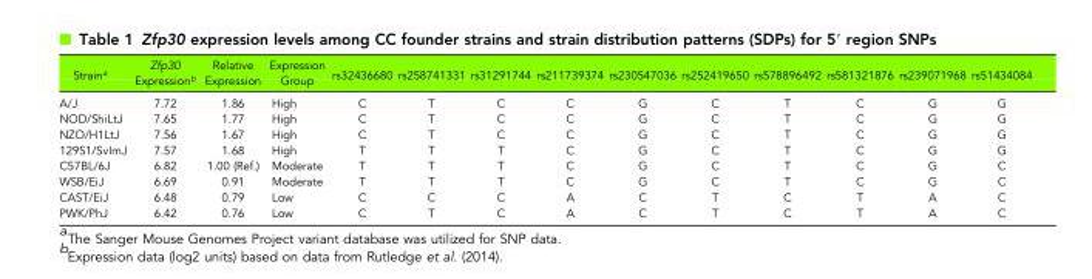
<table><thead><tr><td>Strain<sup>a</sup></td><td>Zfp30 Expression<sup>b</sup></td><td>Relative Expression</td><td>Expression Group</td><td>rs32436680</td><td>rs258741331</td><td>rs31291744</td><td>rs211739374</td><td>rs230547036</td><td>rs252419650</td><td>rs578896492</td><td>rs581321876</td><td>rs239071968</td><td>rs51434084</td></tr></thead><tbody><tr><td>A/J</td><td>7.72</td><td>1.86</td><td>High</td><td>C</td><td>T</td><td>C</td><td>C</td><td>G</td><td>C</td><td>T</td><td>C</td><td>G</td><td>G</td></tr><tr><td>NOD/ShiLtJ</td><td>7.65</td><td>1.77</td><td>High</td><td>C</td><td>T</td><td>C</td><td>C</td><td>G</td><td>C</td><td>T</td><td>C</td><td>G</td><td>G</td></tr><tr><td>NZO/H1LtJ</td><td>7.56</td><td>1.67</td><td>High</td><td>C</td><td>T</td><td>C</td><td>C</td><td>G</td><td>C</td><td>T</td><td>C</td><td>G</td><td>G</td></tr><tr><td>129S1/SvImJ</td><td>7.57</td><td>1.68</td><td>High</td><td>T</td><td>T</td><td>T</td><td>C</td><td>G</td><td>C</td><td>T</td><td>C</td><td>G</td><td>G</td></tr><tr><td>C57BL/6J</td><td>6.82</td><td>1.00 (Ref.)</td><td>Moderate</td><td>T</td><td>T</td><td>T</td><td>C</td><td>G</td><td>C</td><td>T</td><td>C</td><td>G</td><td>C</td></tr><tr><td>WSB/EiJ</td><td>6.69</td><td>0.91</td><td>Moderate</td><td>T</td><td>T</td><td>T</td><td>C</td><td>G</td><td>C</td><td>T</td><td>C</td><td>G</td><td>C</td></tr><tr><td>CAST/EiJ</td><td>6.48</td><td>0.79</td><td>Low</td><td>C</td><td>C</td><td>C</td><td>A</td><td>C</td><td>T</td><td>C</td><td>T</td><td>A</td><td>C</td></tr><tr><td>PWK/PhJ</td><td>6.42</td><td>0.76</td><td>Low</td><td>C</td><td>T</td><td>C</td><td>A</td><td>C</td><td>T</td><td>C</td><td>T</td><td>A</td><td>C</td></tr></tbody></table>